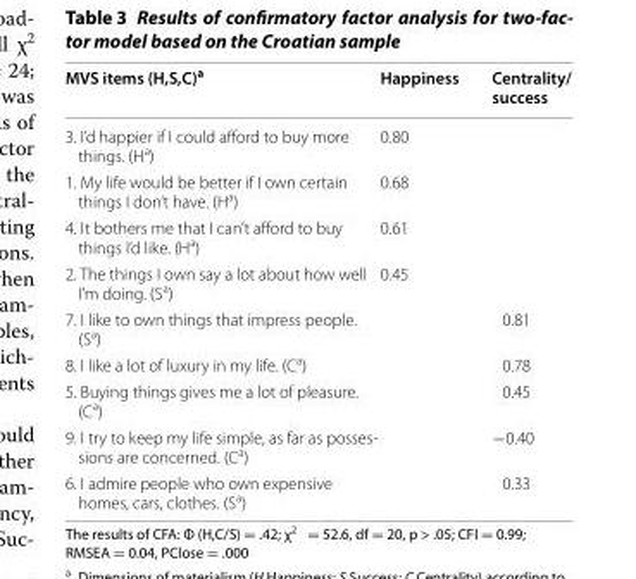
<table><thead><tr><td>MVS items (H,S,C)<sup>a</sup></td><td>Happiness</td><td>Centrality/ success</td></tr></thead><tbody><tr><td>3. I’d happier if I could afford to buy more things. (H<sup>a</sup>)</td><td>0.80</td><td></td></tr><tr><td>1. My life would be better if I own certain things I don’t have. (H<sup>a</sup>)</td><td>0.68</td><td></td></tr><tr><td>4. It bothers me that I can’t afford to buy things I’d like. (H<sup>a</sup>)</td><td>0.61</td><td></td></tr><tr><td>2. The things I own say a lot about how well I’m doing. (S<sup>a</sup>)</td><td>0.45</td><td></td></tr><tr><td>7. I like to own things that impress people. (S<sup>a</sup>)</td><td></td><td>0.81</td></tr><tr><td>8. I like a lot of luxury in my life. (C<sup>a</sup>)</td><td></td><td>0.78</td></tr><tr><td>5. Buying things gives me a lot of pleasure. (C<sup>a</sup>)</td><td></td><td>0.45</td></tr><tr><td>9. I try to keep my life simple, as far as posses‑ sions are concerned. (Ca)</td><td></td><td>−0.40</td></tr><tr><td>6. I admire people who own expensive homes, cars, clothes. (S<sup>a</sup>)</td><td></td><td>0.33</td></tr></tbody></table>